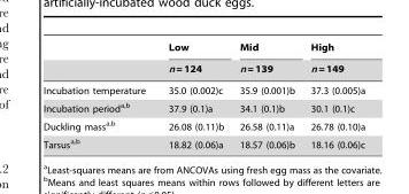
<table><thead><tr><td rowspan="2"></td><td rowspan="2">Low n = 124</td><td rowspan="2">Mid n = 139</td><td rowspan="2">High n = 149</td></tr><tr></tr></thead><tbody><tr><td>Incubation temperature</td><td>35.0 (0.002)c</td><td>35.9 (0.001)b</td><td>37.3 (0.005)a</td></tr><tr><td>Incubation perioda,b</td><td>37.9 (0.1)a</td><td>34.1 (0.1)b</td><td>30.1 (0.1)c</td></tr><tr><td>Duckling massa,b</td><td>26.08 (0.11)b</td><td>26.58 (0.11)a</td><td>26.78 (0.10)a</td></tr><tr><td>Tarsusa,b</td><td>18.82 (0.06)a</td><td>18.57 (0.06)b</td><td>18.16 (0.06)c</td></tr></tbody></table>